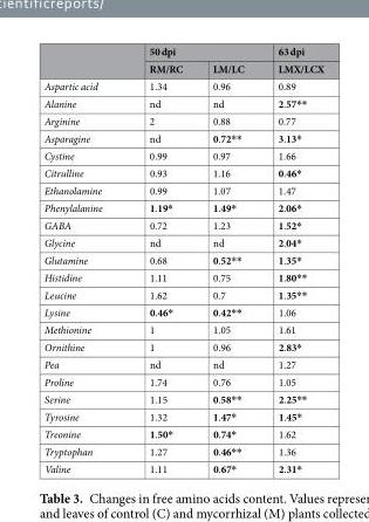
<table><thead><tr><td rowspan="2"></td><td colspan="2">50 dpi</td><td rowspan="2">63 dpi LMX/LCX</td></tr><tr><td>RM/RC</td><td>LM/LC</td></tr></thead><tbody><tr><td>Aspartic acid</td><td>1.34</td><td>0.96</td><td>0.89</td></tr><tr><td>Alanine</td><td>nd</td><td>nd</td><td>2.57**</td></tr><tr><td>Arginine</td><td>2</td><td>0.88</td><td>0.77</td></tr><tr><td>Asparagine</td><td>nd</td><td>0.72**</td><td>3.13*</td></tr><tr><td>Cystine</td><td>0.99</td><td>0.97</td><td>1.66</td></tr><tr><td>Citrulline</td><td>0.93</td><td>1.16</td><td>0.46*</td></tr><tr><td>Ethanolamine</td><td>0.99</td><td>1.07</td><td>1.47</td></tr><tr><td>Phenylalanine</td><td>1.19*</td><td>1.49*</td><td>2.06*</td></tr><tr><td>GABA</td><td>0.72</td><td>1.23</td><td>1.52*</td></tr><tr><td>Glycine</td><td>nd</td><td>nd</td><td>2.04*</td></tr><tr><td>Glutamine</td><td>0.68</td><td>0.52**</td><td>1.35*</td></tr><tr><td>Histidine</td><td>1.11</td><td>0.75</td><td>1.80**</td></tr><tr><td>Leucine</td><td>1.62</td><td>0.7</td><td>1.35**</td></tr><tr><td>Lysine</td><td>0.46*</td><td>0.42**</td><td>1.06</td></tr><tr><td>Methionine</td><td>1</td><td>1.05</td><td>1.61</td></tr><tr><td>Ornithine</td><td>1</td><td>0.96</td><td>2.83*</td></tr><tr><td>Pea</td><td>nd</td><td>nd</td><td>1.27</td></tr><tr><td>Proline</td><td>1.74</td><td>0.76</td><td>1.05</td></tr><tr><td>Serine</td><td>1.15</td><td>0.58**</td><td>2.25**</td></tr><tr><td>Tyrosine</td><td>1.32</td><td>1.47*</td><td>1.45*</td></tr><tr><td>Treonine</td><td>1.50*</td><td>0.74*</td><td>1.62</td></tr><tr><td>Tryptophan</td><td>1.27</td><td>0.46**</td><td>1.36</td></tr><tr><td>Valine</td><td>1.11</td><td>0.67*</td><td>2.31*</td></tr></tbody></table>